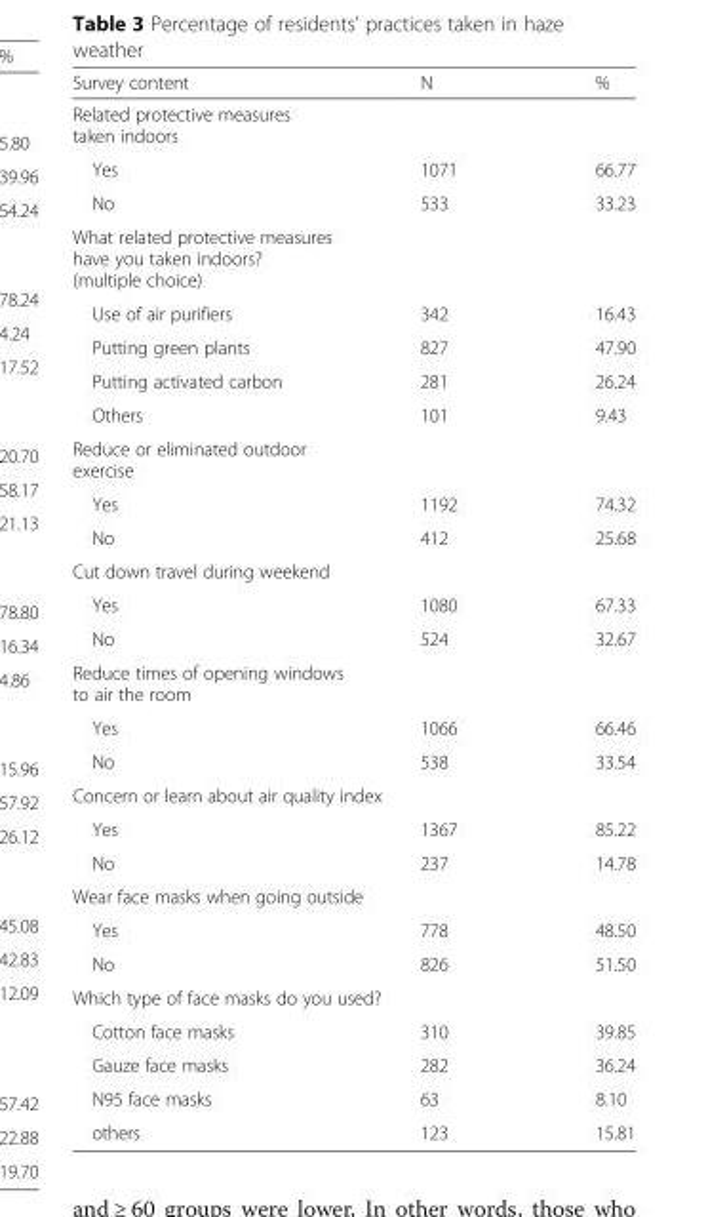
<table><thead><tr><td>Survey content</td><td>N</td><td>%</td></tr></thead><tbody><tr><td colspan="3">Related protective measures taken indoors</td></tr><tr><td>Yes</td><td>1071</td><td>66.77</td></tr><tr><td>No</td><td>533</td><td>33.23</td></tr><tr><td colspan="3">What related protective measures have you taken indoors? (multiple choice)</td></tr><tr><td>Use of air purifiers</td><td>342</td><td>16.43</td></tr><tr><td>Putting green plants</td><td>827</td><td>47.90</td></tr><tr><td>Putting activated carbon</td><td>281</td><td>26.24</td></tr><tr><td>Others</td><td>101</td><td>9.43</td></tr><tr><td colspan="3">Reduce or eliminated outdoor exercise</td></tr><tr><td>Yes</td><td>1192</td><td>74.32</td></tr><tr><td>No</td><td>412</td><td>25.68</td></tr><tr><td colspan="3">Cut down travel during weekend</td></tr><tr><td>Yes</td><td>1080</td><td>67.33</td></tr><tr><td>No</td><td>524</td><td>32.67</td></tr><tr><td colspan="3">Reduce times of opening windows to air the room</td></tr><tr><td>Yes</td><td>1066</td><td>66.46</td></tr><tr><td>No</td><td>538</td><td>33.54</td></tr><tr><td colspan="3">Concern or learn about air quality index</td></tr><tr><td>Yes</td><td>1367</td><td>85.22</td></tr><tr><td>No</td><td>237</td><td>14.78</td></tr><tr><td colspan="3">Wear face masks when going outside</td></tr><tr><td>Yes</td><td>778</td><td>48.50</td></tr><tr><td>No</td><td>826</td><td>51.50</td></tr><tr><td colspan="3">Which type of face masks do you used?</td></tr><tr><td>Cotton face masks</td><td>310</td><td>39.85</td></tr><tr><td>Gauze face masks</td><td>282</td><td>36.24</td></tr><tr><td>N95 face masks</td><td>63</td><td>8.10</td></tr><tr><td>others</td><td>123</td><td>15.81</td></tr></tbody></table>